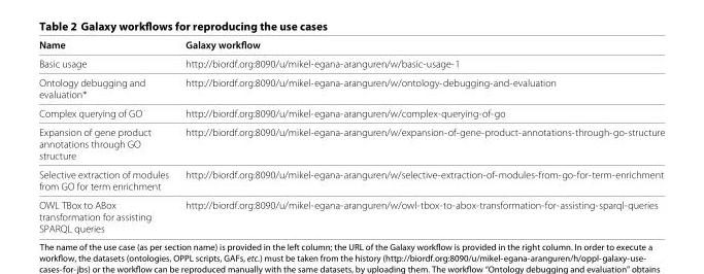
<table><thead><tr><td>Name</td><td>Galaxy workflow</td></tr></thead><tbody><tr><td>Basic usage</td><td>http://biordf.org:8090/u/mikel-egana-aranguren/w/basic-usage-1</td></tr><tr><td>Ontology debugging and evaluation∗</td><td>http://biordf.org:8090/u/mikel-egana-aranguren/w/ontology-debugging-and-evaluation</td></tr><tr><td>Complex querying of GO</td><td>http://biordf.org:8090/u/mikel-egana-aranguren/w/complex-querying-of-go</td></tr><tr><td>Expansion of gene product annotations through GO structure</td><td>http://biordf.org:8090/u/mikel-egana-aranguren/w/expansion-of-gene-product-annotations-through-go-structure</td></tr><tr><td>Selective extraction of modules from GO for term enrichment</td><td>http://biordf.org:8090/u/mikel-egana-aranguren/w/selective-extraction-of-modules-from-go-for-term-enrichment</td></tr><tr><td>OWL TBox to ABox transformation for assisting SPARQL queries</td><td>http://biordf.org:8090/u/mikel-egana-aranguren/w/owl-tbox-to-abox-transformation-for-assisting-sparql-queries</td></tr></tbody></table>